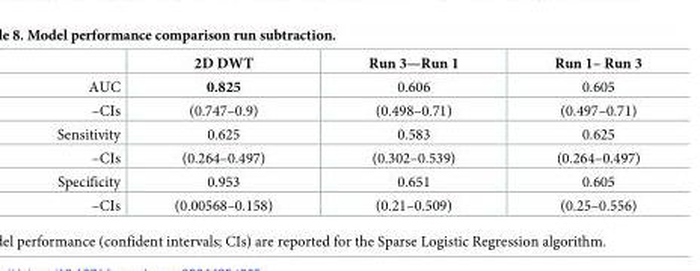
<table><thead><tr><td></td><td>2D DWT</td><td>Run 3—Run 1</td><td>Run 1– Run 3</td></tr></thead><tbody><tr><td>AUC</td><td>0.825</td><td>0.606</td><td>0.605</td></tr><tr><td>–CIs</td><td>(0.747–0.9)</td><td>(0.498–0.71)</td><td>(0.497–0.71)</td></tr><tr><td>Sensitivity</td><td>0.625</td><td>0.583</td><td>0.625</td></tr><tr><td>–CIs</td><td>(0.264–0.497)</td><td>(0.302–0.539)</td><td>(0.264–0.497)</td></tr><tr><td>Specificity</td><td>0.953</td><td>0.651</td><td>0.605</td></tr><tr><td>–CIs</td><td>(0.00568–0.158)</td><td>(0.21–0.509)</td><td>(0.25–0.556)</td></tr></tbody></table>